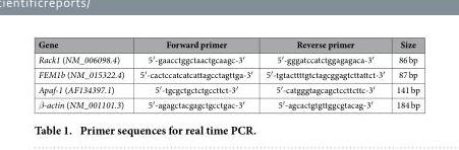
<table><thead><tr><td>Gene</td><td>Forward primer</td><td>Reverse primer</td><td>Size</td></tr></thead><tbody><tr><td>Rack1 (NM_006098.4)</td><td>5′ -gaacctggctaactgcaagc-3′</td><td>5′ -gggatccatctggagagaca-3′</td><td>86 bp</td></tr><tr><td>FEM1b (NM_015322.4)</td><td>5′ -cactccatcatcattagcctagttga-3′</td><td>5′ -tgtacttttgtctagcggagtcttattct-3′</td><td>87 bp</td></tr><tr><td>Apaf-1 (AF134397.1)</td><td>5′ -tgcgctgctctgccttct-3′</td><td>5′ -catgggtagcagctccttcttc-3′</td><td>141 bp</td></tr><tr><td>β-actin (NM_001101.3)</td><td>5′ -agagctacgagctgcctgac-3′</td><td>5′ -agcactgtgttggcgtacag-3′</td><td>184 bp</td></tr></tbody></table>